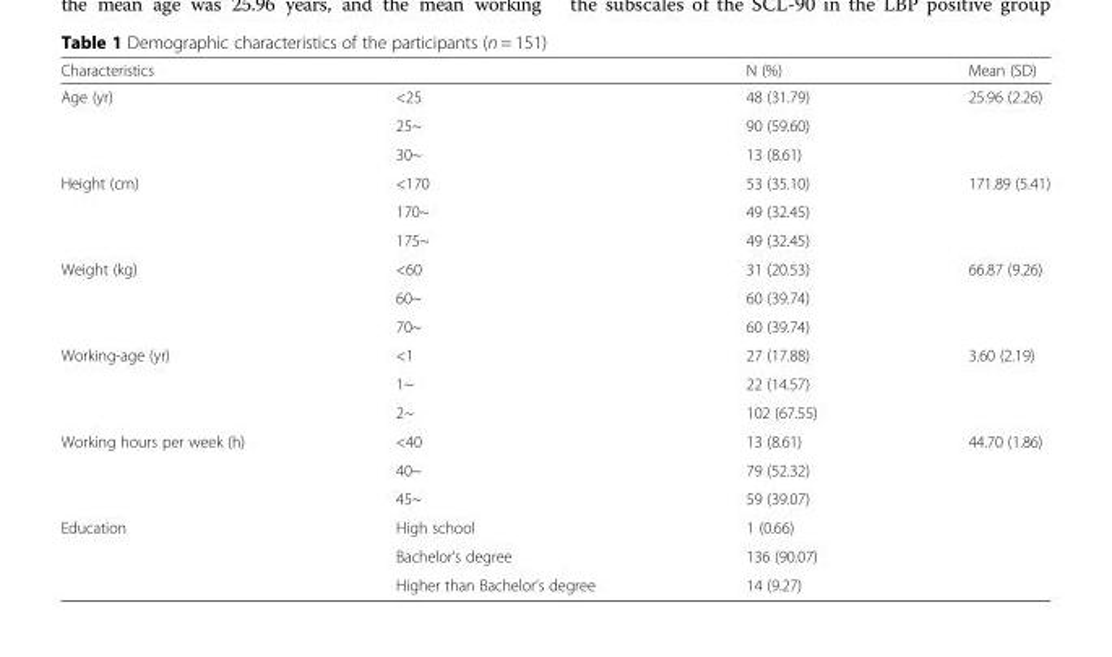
<table><thead><tr><td>Characteristics</td><td></td><td>N (%)</td><td>Mean (SD)</td></tr></thead><tbody><tr><td rowspan="3">Age (yr)</td><td>&lt;25</td><td>48 (31.79)</td><td rowspan="3">25.96 (2.26)</td></tr><tr><td>25~</td><td>90 (59.60)</td></tr><tr><td>30~</td><td>13 (8.61)</td></tr><tr><td rowspan="3">Height (cm)</td><td>&lt;170</td><td>53 (35.10)</td><td rowspan="3">171.89 (5.41)</td></tr><tr><td>170~</td><td>49 (32.45)</td></tr><tr><td>175~</td><td>49 (32.45)</td></tr><tr><td rowspan="3">Weight (kg)</td><td>&lt;60</td><td>31 (20.53)</td><td rowspan="3">66.87 (9.26)</td></tr><tr><td>60~</td><td>60 (39.74)</td></tr><tr><td>70~</td><td>60 (39.74)</td></tr><tr><td rowspan="3">Working-age (yr)</td><td>&lt;1</td><td>27 (17.88)</td><td rowspan="3">3.60 (2.19)</td></tr><tr><td>1~</td><td>22 (14.57)</td></tr><tr><td>2~</td><td>102 (67.55)</td></tr><tr><td rowspan="3">Working hours per week (h)</td><td>&lt;40</td><td>13 (8.61)</td><td rowspan="3">44.70 (1.86)</td></tr><tr><td>40~</td><td>79 (52.32)</td></tr><tr><td>45~</td><td>59 (39.07)</td></tr><tr><td rowspan="3">Education</td><td>High school</td><td>1 (0.66)</td><td></td></tr><tr><td>Bachelor’s degree</td><td>136 (90.07)</td><td></td></tr><tr><td>Higher than Bachelor’s degree</td><td>14 (9.27)</td><td></td></tr></tbody></table>